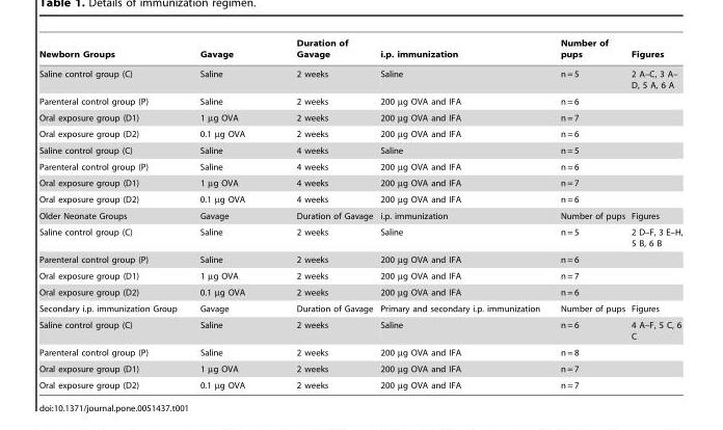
<table><thead><tr><td>Newborn Groups</td><td>Gavage</td><td>Duration of Gavage</td><td>i.p. immunization</td><td>Number of pups</td><td>Figures</td></tr></thead><tbody><tr><td>Saline control group (C)</td><td>Saline</td><td>2 weeks</td><td>Saline</td><td>n = 5</td><td>2 A–C, 3 A– D, 5 A, 6 A</td></tr><tr><td>Parenteral control group (P)</td><td>Saline</td><td>2 weeks</td><td>200 µg OVA and IFA</td><td>n = 6</td><td></td></tr><tr><td>Oral exposure group (D1)</td><td>1 µg OVA</td><td>2 weeks</td><td>200 µg OVA and IFA</td><td>n = 7</td><td></td></tr><tr><td>Oral exposure group (D2)</td><td>0.1 µg OVA</td><td>2 weeks</td><td>200 µg OVA and IFA</td><td>n = 6</td><td></td></tr><tr><td>Saline control group (C)</td><td>Saline</td><td>4 weeks</td><td>Saline</td><td>n = 5</td><td></td></tr><tr><td>Parenteral control group (P)</td><td>Saline</td><td>4 weeks</td><td>200 µg OVA and IFA</td><td>n = 6</td><td></td></tr><tr><td>Oral exposure group (D1)</td><td>1 µg OVA</td><td>4 weeks</td><td>200 µg OVA and IFA</td><td>n = 7</td><td></td></tr><tr><td>Oral exposure group (D2)</td><td>0.1 µg OVA</td><td>4 weeks</td><td>200 µg OVA and IFA</td><td>n = 6</td><td></td></tr><tr><td>Older Neonate Groups</td><td>Gavage</td><td>Duration of Gavage</td><td>i.p. immunization</td><td>Number of pups</td><td>Figures</td></tr><tr><td>Saline control group (C)</td><td>Saline</td><td>2 weeks</td><td>Saline</td><td>n = 5</td><td>2 D–F, 3 E–H, 5 B, 6 B</td></tr><tr><td>Parenteral control group (P)</td><td>Saline</td><td>2 weeks</td><td>200 µg OVA and IFA</td><td>n = 6</td><td></td></tr><tr><td>Oral exposure group (D1)</td><td>1 µg OVA</td><td>2 weeks</td><td>200 µg OVA and IFA</td><td>n = 7</td><td></td></tr><tr><td>Oral exposure group (D2)</td><td>0.1 µg OVA</td><td>2 weeks</td><td>200 µg OVA and IFA</td><td>n = 6</td><td></td></tr><tr><td>Secondary i.p. immunization Group</td><td>Gavage</td><td>Duration of Gavage</td><td>Primary and secondary i.p. immunization</td><td>Number of pups</td><td>Figures</td></tr><tr><td>Saline control group (C)</td><td>Saline</td><td>2 weeks</td><td>Saline</td><td>n = 6</td><td>4 A–F, 5 C, 6 C</td></tr><tr><td>Parenteral control group (P)</td><td>Saline</td><td>2 weeks</td><td>200 µg OVA and IFA</td><td>n = 8</td><td></td></tr><tr><td>Oral exposure group (D1)</td><td>1 µg OVA</td><td>2 weeks</td><td>200 µg OVA and IFA</td><td>n = 7</td><td></td></tr><tr><td>Oral exposure group (D2)</td><td>0.1 µg OVA</td><td>2 weeks</td><td>200 µg OVA and IFA</td><td>n = 7</td><td></td></tr></tbody></table>